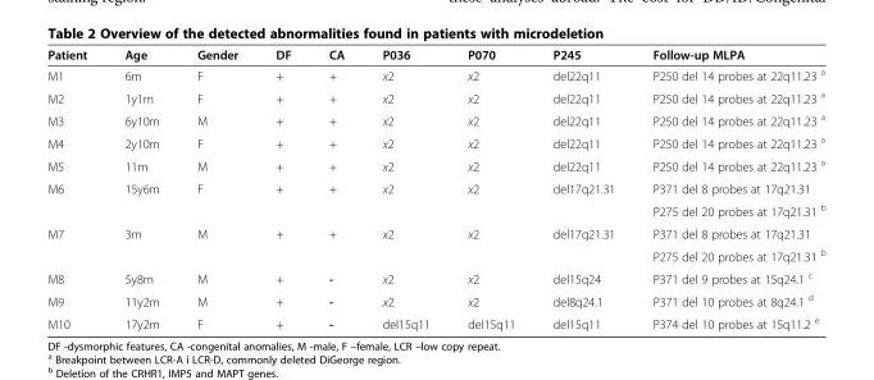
<table><thead><tr><td>Patient</td><td>Age</td><td>Gender</td><td>DF</td><td>CA</td><td>P036</td><td>P070</td><td>P245</td><td>Follow-up MLPA</td></tr></thead><tbody><tr><td>M1</td><td>6m</td><td>F</td><td>+</td><td>+</td><td>x2</td><td>x2</td><td>del22q11</td><td>P250 del 14 probes at 22q11.23 <sup>a</sup></td></tr><tr><td>M2</td><td>1y1m</td><td>F</td><td>+</td><td>+</td><td>x2</td><td>x2</td><td>del22q11</td><td>P250 del 14 probes at 22q11.23 <sup>a</sup></td></tr><tr><td>M3</td><td>6y10m</td><td>M</td><td>+</td><td>+</td><td>x2</td><td>x2</td><td>del22q11</td><td>P250 del 14 probes at 22q11.23 <sup>a</sup></td></tr><tr><td>M4</td><td>2y10m</td><td>F</td><td>+</td><td>+</td><td>x2</td><td>x2</td><td>del22q11</td><td>P250 del 14 probes at 22q11.23 <sup>a</sup></td></tr><tr><td>M5</td><td>11m</td><td>M</td><td>+</td><td>+</td><td>x2</td><td>x2</td><td>del22q11</td><td>P250 del 14 probes at 22q11.23 <sup>a</sup></td></tr><tr><td rowspan="2">M6</td><td rowspan="2">15y6m</td><td rowspan="2">F</td><td rowspan="2">+</td><td rowspan="2">+</td><td rowspan="2">x2</td><td rowspan="2">x2</td><td rowspan="2">del17q21.31</td><td>P371 del 8 probes at 17q21.31</td></tr><tr><td>P275 del 20 probes at 17q21.31 <sup>b</sup></td></tr><tr><td rowspan="2">M7</td><td rowspan="2">3m</td><td rowspan="2">M</td><td rowspan="2">+</td><td rowspan="2">+</td><td rowspan="2">x2</td><td rowspan="2">x2</td><td rowspan="2">del17q21.31</td><td>P371 del 8 probes at 17q21.31</td></tr><tr><td>P275 del 20 probes at 17q21.31 <sup>b</sup></td></tr><tr><td>M8</td><td>5y8m</td><td>M</td><td>+</td><td>-</td><td>x2</td><td>x2</td><td>del15q24</td><td>P371 del 9 probes at 15q24.1 <sup>c</sup></td></tr><tr><td>M9</td><td>11y2m</td><td>M</td><td>+</td><td>-</td><td>x2</td><td>x2</td><td>del8q24.1</td><td>P371 del 10 probes at 8q24.1 <sup>d</sup></td></tr><tr><td>M10</td><td>17y2m</td><td>F</td><td>+</td><td>-</td><td>del15q11</td><td>del15q11</td><td>del15q11</td><td>P374 del 10 probes at 15q11.2 <sup>e</sup></td></tr></tbody></table>